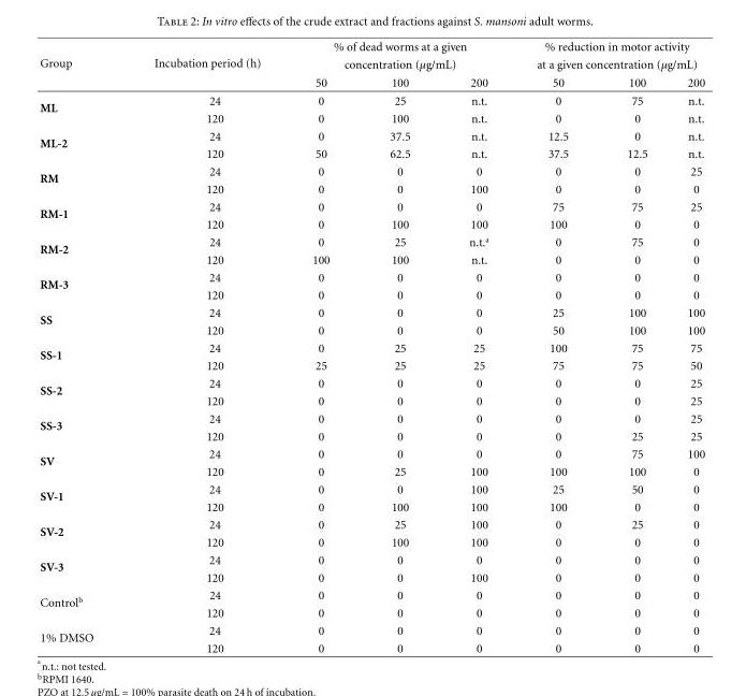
<table><thead><tr><td rowspan="3">Group</td><td rowspan="3">Incubation period (h)</td><td rowspan="2" colspan="3">% of dead worms at a given concentration (μg/mL)</td><td rowspan="2" colspan="3">% reduction in motor activity at a given concentration (μg/mL)</td></tr><tr></tr><tr><td>50</td><td>100</td><td>200</td><td>50</td><td>100</td><td>200</td></tr></thead><tbody><tr><td rowspan="2">ML</td><td>24</td><td>0</td><td>25</td><td>n.t.</td><td>0</td><td>75</td><td>n.t.</td></tr><tr><td>120</td><td>0</td><td>100</td><td>n.t.</td><td>0</td><td>0</td><td>n.t.</td></tr><tr><td rowspan="2">ML-2</td><td>24</td><td>0</td><td>37.5</td><td>n.t.</td><td>12.5</td><td>0</td><td>n.t.</td></tr><tr><td>120</td><td>50</td><td>62.5</td><td>n.t.</td><td>37.5</td><td>12.5</td><td>n.t.</td></tr><tr><td rowspan="2">RM</td><td>24</td><td>0</td><td>0</td><td>0</td><td>0</td><td>0</td><td>25</td></tr><tr><td>120</td><td>0</td><td>0</td><td>100</td><td>0</td><td>0</td><td>0</td></tr><tr><td rowspan="2">RM-1</td><td>24</td><td>0</td><td>0</td><td>0</td><td>75</td><td>75</td><td>25</td></tr><tr><td>120</td><td>0</td><td>100</td><td>100</td><td>100</td><td>0</td><td>0</td></tr><tr><td rowspan="2">RM-2</td><td>24</td><td>0</td><td>25</td><td>n.t.<sup>a</sup></td><td>0</td><td>75</td><td>0</td></tr><tr><td>120</td><td>100</td><td>100</td><td>n.t.</td><td>0</td><td>0</td><td>0</td></tr><tr><td rowspan="2">RM-3</td><td>24</td><td>0</td><td>0</td><td>0</td><td>0</td><td>0</td><td>0</td></tr><tr><td>120</td><td>0</td><td>0</td><td>0</td><td>0</td><td>0</td><td>0</td></tr><tr><td rowspan="2">SS</td><td>24</td><td>0</td><td>0</td><td>0</td><td>25</td><td>100</td><td>100</td></tr><tr><td>120</td><td>0</td><td>0</td><td>0</td><td>50</td><td>100</td><td>100</td></tr><tr><td rowspan="2">SS-1</td><td>24</td><td>0</td><td>25</td><td>25</td><td>100</td><td>75</td><td>75</td></tr><tr><td>120</td><td>25</td><td>25</td><td>25</td><td>75</td><td>75</td><td>50</td></tr><tr><td rowspan="2">SS-2</td><td>24</td><td>0</td><td>0</td><td>0</td><td>0</td><td>0</td><td>25</td></tr><tr><td>120</td><td>0</td><td>0</td><td>0</td><td>0</td><td>0</td><td>25</td></tr><tr><td rowspan="2">SS-3</td><td>24</td><td>0</td><td>0</td><td>0</td><td>0</td><td>0</td><td>25</td></tr><tr><td>120</td><td>0</td><td>0</td><td>0</td><td>0</td><td>25</td><td>25</td></tr><tr><td rowspan="2">SV</td><td>24</td><td>0</td><td>0</td><td>0</td><td>0</td><td>75</td><td>100</td></tr><tr><td>120</td><td>0</td><td>25</td><td>100</td><td>100</td><td>100</td><td>0</td></tr><tr><td rowspan="2">SV-1</td><td>24</td><td>0</td><td>0</td><td>100</td><td>25</td><td>50</td><td>0</td></tr><tr><td>120</td><td>0</td><td>100</td><td>100</td><td>100</td><td>0</td><td>0</td></tr><tr><td rowspan="2">SV-2</td><td>24</td><td>0</td><td>25</td><td>100</td><td>0</td><td>25</td><td>0</td></tr><tr><td>120</td><td>0</td><td>100</td><td>100</td><td>0</td><td>0</td><td>0</td></tr><tr><td rowspan="2">SV-3</td><td>24</td><td>0</td><td>0</td><td>0</td><td>0</td><td>0</td><td>0</td></tr><tr><td>120</td><td>0</td><td>0</td><td>100</td><td>0</td><td>0</td><td>0</td></tr><tr><td rowspan="2">Control<sup>b</sup></td><td>24</td><td>0</td><td>0</td><td>0</td><td>0</td><td>0</td><td>0</td></tr><tr><td>120</td><td>0</td><td>0</td><td>0</td><td>0</td><td>0</td><td>0</td></tr><tr><td rowspan="2">1% DMSO</td><td>24</td><td>0</td><td>0</td><td>0</td><td>0</td><td>0</td><td>0</td></tr><tr><td>120</td><td>0</td><td>0</td><td>0</td><td>0</td><td>0</td><td>0</td></tr></tbody></table>